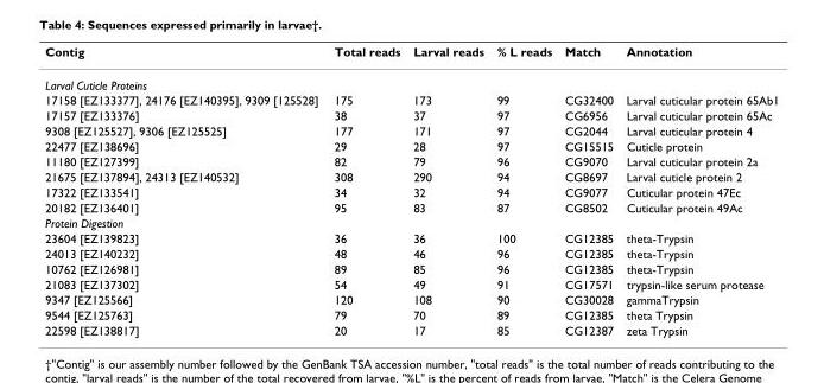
<table><thead><tr><td>Contig</td><td>Total reads</td><td>Larval reads</td><td>% L reads</td><td>Match</td><td>Annotation</td></tr></thead><tbody><tr><td colspan="6">Larval Cuticle Proteins</td></tr><tr><td>17158 [EZ133377], 24176 [EZ140395], 9309 [125528]</td><td>175</td><td>173</td><td>99</td><td>CG32400</td><td>Larval cuticular protein 65Ab1</td></tr><tr><td>17157 [EZ133376]</td><td>38</td><td>37</td><td>97</td><td>CG6956</td><td>Larval cuticular protein 65Ac</td></tr><tr><td>9308 [EZ125527], 9306 [EZ125525]</td><td>177</td><td>171</td><td>97</td><td>CG2044</td><td>Larval cuticular protein 4</td></tr><tr><td>22477 [EZ138696]</td><td>29</td><td>28</td><td>97</td><td>CG15515</td><td>Cuticle protein</td></tr><tr><td>11180 [EZ127399]</td><td>82</td><td>79</td><td>96</td><td>CG9070</td><td>Larval cuticular protein 2a</td></tr><tr><td>21675 [EZ137894], 24313 [EZ140532]</td><td>308</td><td>290</td><td>94</td><td>CG8697</td><td>Larval cuticle protein 2</td></tr><tr><td>17322 [EZ133541]</td><td>34</td><td>32</td><td>94</td><td>CG9077</td><td>Cuticular protein 47Ec</td></tr><tr><td>20182 [EZ136401]</td><td>95</td><td>83</td><td>87</td><td>CG8502</td><td>Cuticular protein 49Ac</td></tr><tr><td colspan="6">Protein Digestion</td></tr><tr><td>23604 [EZ139823]</td><td>36</td><td>36</td><td>100</td><td>CG12385</td><td>theta-Trypsin</td></tr><tr><td>24013 [EZ140232]</td><td>48</td><td>46</td><td>96</td><td>CG12385</td><td>theta-Trypsin</td></tr><tr><td>10762 [EZ126981]</td><td>89</td><td>85</td><td>96</td><td>CG12385</td><td>theta-Trypsin</td></tr><tr><td>21083 [EZ137302]</td><td>54</td><td>49</td><td>91</td><td>CG17571</td><td>trypsin-like serum protease</td></tr><tr><td>9347 [EZ125566]</td><td>120</td><td>108</td><td>90</td><td>CG30028</td><td>gammaTrypsin</td></tr><tr><td>9544 [EZ125763]</td><td>79</td><td>70</td><td>89</td><td>CG12385</td><td>theta Trypsin</td></tr><tr><td>22598 [EZ138817]</td><td>20</td><td>17</td><td>85</td><td>CG12387</td><td>zeta Trypsin</td></tr></tbody></table>